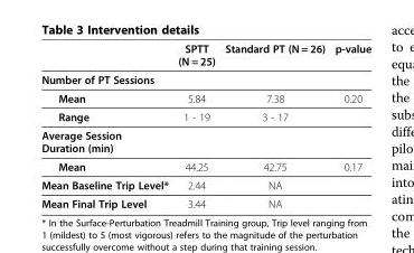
<table><thead><tr><td></td><td>SPTT (N = 25)</td><td>Standard PT (N = 26)</td><td>p-value</td></tr></thead><tbody><tr><td colspan="4">Number of PT Sessions</td></tr><tr><td>Mean</td><td>5.84</td><td>7.38</td><td>0.20</td></tr><tr><td>Range</td><td>1 - 19</td><td>3 - 17</td><td></td></tr><tr><td colspan="4">Average Session Duration (min)</td></tr><tr><td>Mean</td><td>44.25</td><td>42.75</td><td>0.17</td></tr><tr><td>Mean Baseline Trip Level*</td><td>2.44</td><td>NA</td><td></td></tr><tr><td>Mean Final Trip Level</td><td>3.44</td><td>NA</td><td></td></tr></tbody></table>